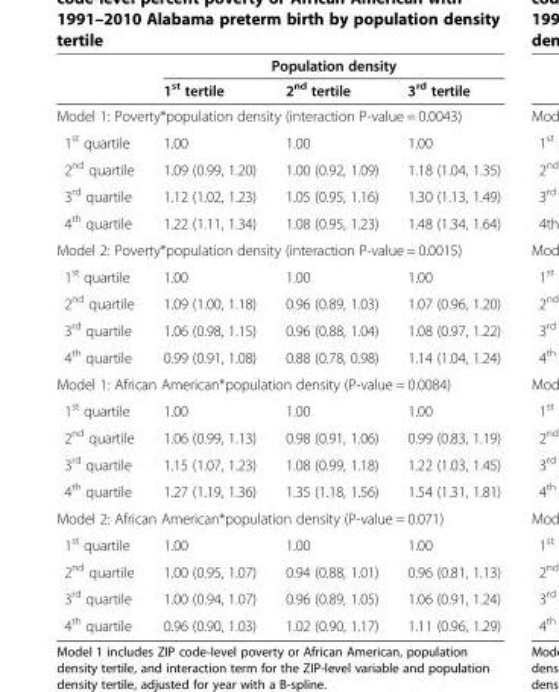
<table><thead><tr><td rowspan="2"></td><td colspan="3">Population density</td></tr><tr><td>1<sup>st</sup> tertile</td><td>2<sup>nd</sup> tertile</td><td>3<sup>rd</sup> tertile</td></tr></thead><tbody><tr><td colspan="4">Model 1: Poverty*population density (interaction P-value = 0.0043)</td></tr><tr><td>1<sup>st</sup> quartile</td><td>1.00</td><td>1.00</td><td>1.00</td></tr><tr><td>2<sup>nd</sup> quartile</td><td>1.09 (0.99, 1.20)</td><td>1.00 (0.92, 1.09)</td><td>1.18 (1.04, 1.35)</td></tr><tr><td>3<sup>rd</sup> quartile</td><td>1.12 (1.02, 1.23)</td><td>1.05 (0.95, 1.16)</td><td>1.30 (1.13, 1.49)</td></tr><tr><td>4<sup>th</sup> quartile</td><td>1.22 (1.11, 1.34)</td><td>1.08 (0.95, 1.23)</td><td>1.48 (1.34, 1.64)</td></tr><tr><td colspan="4">Model 2: Poverty*population density (interaction P-value = 0.0015)</td></tr><tr><td>1<sup>st</sup> quartile</td><td>1.00</td><td>1.00</td><td>1.00</td></tr><tr><td>2<sup>nd</sup> quartile</td><td>1.09 (1.00, 1.18)</td><td>0.96 (0.89, 1.03)</td><td>1.07 (0.96, 1.20)</td></tr><tr><td>3<sup>rd</sup> quartile</td><td>1.06 (0.98, 1.15)</td><td>0.96 (0.88, 1.04)</td><td>1.08 (0.97, 1.22)</td></tr><tr><td>4<sup>th</sup> quartile</td><td>0.99 (0.91, 1.08)</td><td>0.88 (0.78, 0.98)</td><td>1.14 (1.04, 1.24)</td></tr><tr><td colspan="4">Model 1: African American*population density (P-value = 0.0084)</td></tr><tr><td>1<sup>st</sup> quartile</td><td>1.00</td><td>1.00</td><td>1.00</td></tr><tr><td>2<sup>nd</sup> quartile</td><td>1.06 (0.99, 1.13)</td><td>0.98 (0.91, 1.06)</td><td>0.99 (0.83, 1.19)</td></tr><tr><td>3<sup>rd</sup> quartile</td><td>1.15 (1.07, 1.23)</td><td>1.08 (0.99, 1.18)</td><td>1.22 (1.03, 1.45)</td></tr><tr><td>4<sup>th</sup> quartile</td><td>1.27 (1.19, 1.36)</td><td>1.35 (1.18, 1.56)</td><td>1.54 (1.31, 1.81)</td></tr><tr><td colspan="4">Model 2: African American*population density (P-value = 0.071)</td></tr><tr><td>1<sup>st</sup> quartile</td><td>1.00</td><td>1.00</td><td>1.00</td></tr><tr><td>2<sup>nd</sup> quartile</td><td>1.00 (0.95, 1.07)</td><td>0.94 (0.88, 1.01)</td><td>0.96 (0.81, 1.13)</td></tr><tr><td>3<sup>rd</sup> quartile</td><td>1.00 (0.94, 1.07)</td><td>0.96 (0.89, 1.05)</td><td>1.06 (0.91, 1.24)</td></tr><tr><td>4<sup>th</sup> quartile</td><td>0.96 (0.90, 1.03)</td><td>1.02 (0.90, 1.17)</td><td>1.11 (0.96, 1.29)</td></tr></tbody></table>